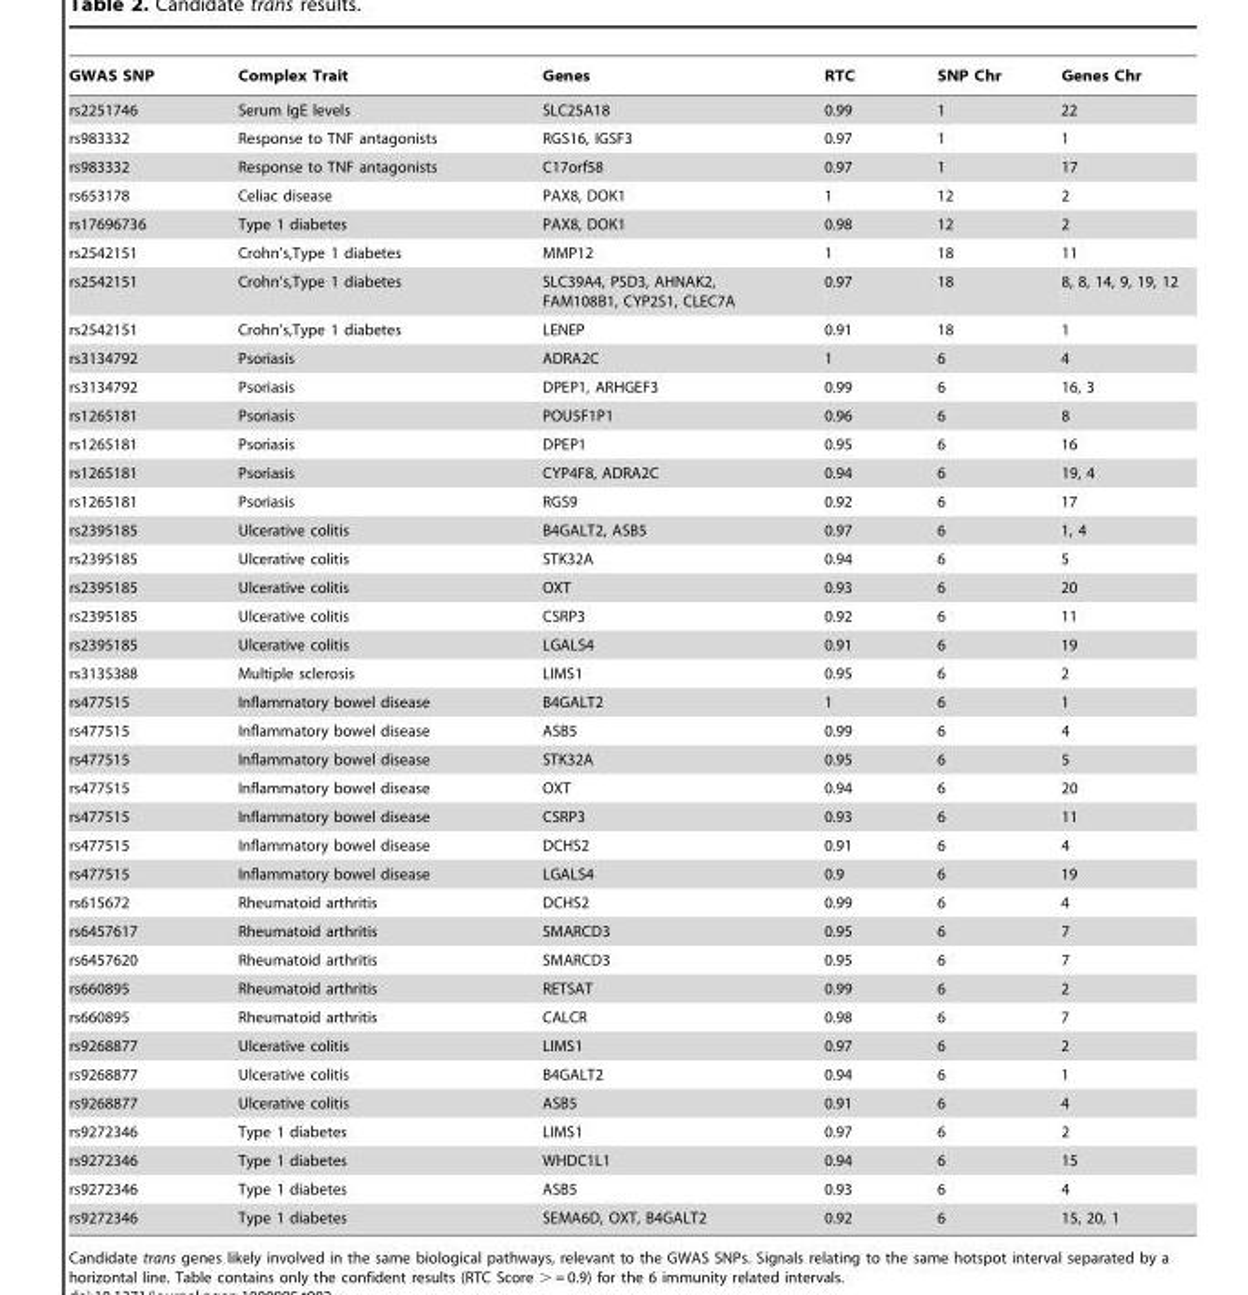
<table><thead><tr><td>GWAS SNP</td><td>Complex Trait</td><td>Genes</td><td>RTC</td><td>SNP Chr</td><td>Genes Chr</td></tr></thead><tbody><tr><td>rs2251746</td><td>Serum IgE levels</td><td>SLC25A18</td><td>0.99</td><td>1</td><td>22</td></tr><tr><td>rs983332</td><td>Response to TNF antagonists</td><td>RGS16, IGSF3</td><td>0.97</td><td>1</td><td>1</td></tr><tr><td>rs983332</td><td>Response to TNF antagonists</td><td>C17orf58</td><td>0.97</td><td>1</td><td>17</td></tr><tr><td>rs653178</td><td>Celiac disease</td><td>PAX8, DOK1</td><td>1</td><td>12</td><td>2</td></tr><tr><td>rs17696736</td><td>Type 1 diabetes</td><td>PAX8, DOK1</td><td>0.98</td><td>12</td><td>2</td></tr><tr><td>rs2542151</td><td>Crohn’s,Type 1 diabetes</td><td>MMP12</td><td>1</td><td>18</td><td>11</td></tr><tr><td>rs2542151</td><td>Crohn’s,Type 1 diabetes</td><td>SLC39A4, PSD3, AHNAK2, FAM108B1, CYP2S1, CLEC7A</td><td>0.97</td><td>18</td><td>8, 8, 14, 9, 19, 12</td></tr><tr><td>rs2542151</td><td>Crohn’s,Type 1 diabetes</td><td>LENEP</td><td>0.91</td><td>18</td><td>1</td></tr><tr><td>rs3134792</td><td>Psoriasis</td><td>ADRA2C</td><td>1</td><td>6</td><td>4</td></tr><tr><td>rs3134792</td><td>Psoriasis</td><td>DPEP1, ARHGEF3</td><td>0.99</td><td>6</td><td>16, 3</td></tr><tr><td>rs1265181</td><td>Psoriasis</td><td>POU5F1P1</td><td>0.96</td><td>6</td><td>8</td></tr><tr><td>rs1265181</td><td>Psoriasis</td><td>DPEP1</td><td>0.95</td><td>6</td><td>16</td></tr><tr><td>rs1265181</td><td>Psoriasis</td><td>CYP4F8, ADRA2C</td><td>0.94</td><td>6</td><td>19, 4</td></tr><tr><td>rs1265181</td><td>Psoriasis</td><td>RGS9</td><td>0.92</td><td>6</td><td>17</td></tr><tr><td>rs2395185</td><td>Ulcerative colitis</td><td>B4GALT2, ASB5</td><td>0.97</td><td>6</td><td>1, 4</td></tr><tr><td>rs2395185</td><td>Ulcerative colitis</td><td>STK32A</td><td>0.94</td><td>6</td><td>5</td></tr><tr><td>rs2395185</td><td>Ulcerative colitis</td><td>OXT</td><td>0.93</td><td>6</td><td>20</td></tr><tr><td>rs2395185</td><td>Ulcerative colitis</td><td>CSRP3</td><td>0.92</td><td>6</td><td>11</td></tr><tr><td>rs2395185</td><td>Ulcerative colitis</td><td>LGALS4</td><td>0.91</td><td>6</td><td>19</td></tr><tr><td>rs3135388</td><td>Multiple sclerosis</td><td>LIMS1</td><td>0.95</td><td>6</td><td>2</td></tr><tr><td>rs477515</td><td>Inflammatory bowel disease</td><td>B4GALT2</td><td>1</td><td>6</td><td>1</td></tr><tr><td>rs477515</td><td>Inflammatory bowel disease</td><td>ASB5</td><td>0.99</td><td>6</td><td>4</td></tr><tr><td>rs477515</td><td>Inflammatory bowel disease</td><td>STK32A</td><td>0.95</td><td>6</td><td>5</td></tr><tr><td>rs477515</td><td>Inflammatory bowel disease</td><td>OXT</td><td>0.94</td><td>6</td><td>20</td></tr><tr><td>rs477515</td><td>Inflammatory bowel disease</td><td>CSRP3</td><td>0.93</td><td>6</td><td>11</td></tr><tr><td>rs477515</td><td>Inflammatory bowel disease</td><td>DCHS2</td><td>0.91</td><td>6</td><td>4</td></tr><tr><td>rs477515</td><td>Inflammatory bowel disease</td><td>LGALS4</td><td>0.9</td><td>6</td><td>19</td></tr><tr><td>rs615672</td><td>Rheumatoid arthritis</td><td>DCHS2</td><td>0.99</td><td>6</td><td>4</td></tr><tr><td>rs6457617</td><td>Rheumatoid arthritis</td><td>SMARCD3</td><td>0.95</td><td>6</td><td>7</td></tr><tr><td>rs6457620</td><td>Rheumatoid arthritis</td><td>SMARCD3</td><td>0.95</td><td>6</td><td>7</td></tr><tr><td>rs660895</td><td>Rheumatoid arthritis</td><td>RETSAT</td><td>0.99</td><td>6</td><td>2</td></tr><tr><td>rs660895</td><td>Rheumatoid arthritis</td><td>CALCR</td><td>0.98</td><td>6</td><td>7</td></tr><tr><td>rs9268877</td><td>Ulcerative colitis</td><td>LIMS1</td><td>0.97</td><td>6</td><td>2</td></tr><tr><td>rs9268877</td><td>Ulcerative colitis</td><td>B4GALT2</td><td>0.94</td><td>6</td><td>1</td></tr><tr><td>rs9268877</td><td>Ulcerative colitis</td><td>ASB5</td><td>0.91</td><td>6</td><td>4</td></tr><tr><td>rs9272346</td><td>Type 1 diabetes</td><td>LIMS1</td><td>0.97</td><td>6</td><td>2</td></tr><tr><td>rs9272346</td><td>Type 1 diabetes</td><td>WHDC1L1</td><td>0.94</td><td>6</td><td>15</td></tr><tr><td>rs9272346</td><td>Type 1 diabetes</td><td>ASB5</td><td>0.93</td><td>6</td><td>4</td></tr><tr><td>rs9272346</td><td>Type 1 diabetes</td><td>SEMA6D, OXT, B4GALT2</td><td>0.92</td><td>6</td><td>15, 20, 1</td></tr></tbody></table>